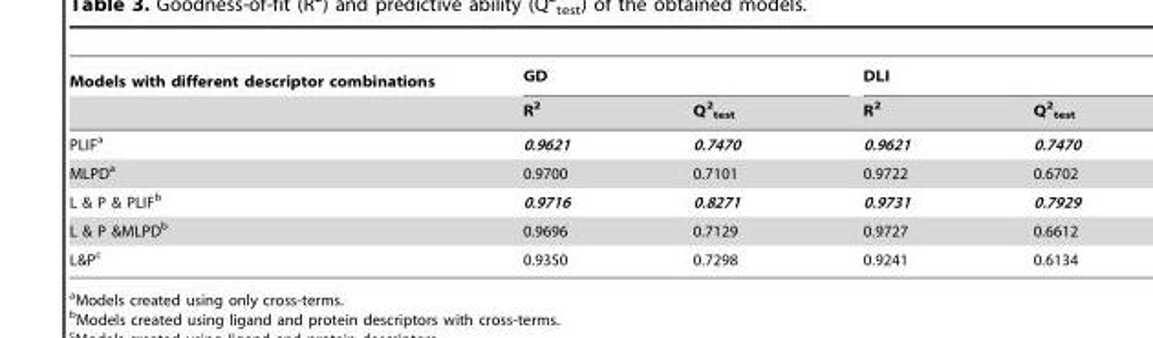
<table><thead><tr><td rowspan="2">Models with different descriptor combinations</td><td colspan="2">GD</td><td colspan="2">DLI</td></tr><tr><td>R<sup>2</sup></td><td>Q<sup>2</sup> <sub>test</sub></td><td>R<sup>2</sup></td><td>Q<sup>2</sup> <sub>test</sub></td></tr></thead><tbody><tr><td>PLIF<sup>a</sup></td><td>0.9621</td><td>0.7470</td><td>0.9621</td><td>0.7470</td></tr><tr><td>MLPD<sup>a</sup></td><td>0.9700</td><td>0.7101</td><td>0.9722</td><td>0.6702</td></tr><tr><td>L &amp; P &amp; PLIF<sup>b</sup></td><td>0.9716</td><td>0.8271</td><td>0.9731</td><td>0.7929</td></tr><tr><td>L &amp; P &amp;MLPD<sup>b</sup></td><td>0.9696</td><td>0.7129</td><td>0.9727</td><td>0.6612</td></tr><tr><td>L&amp;P<sup>c</sup></td><td>0.9350</td><td>0.7298</td><td>0.9241</td><td>0.6134</td></tr></tbody></table>